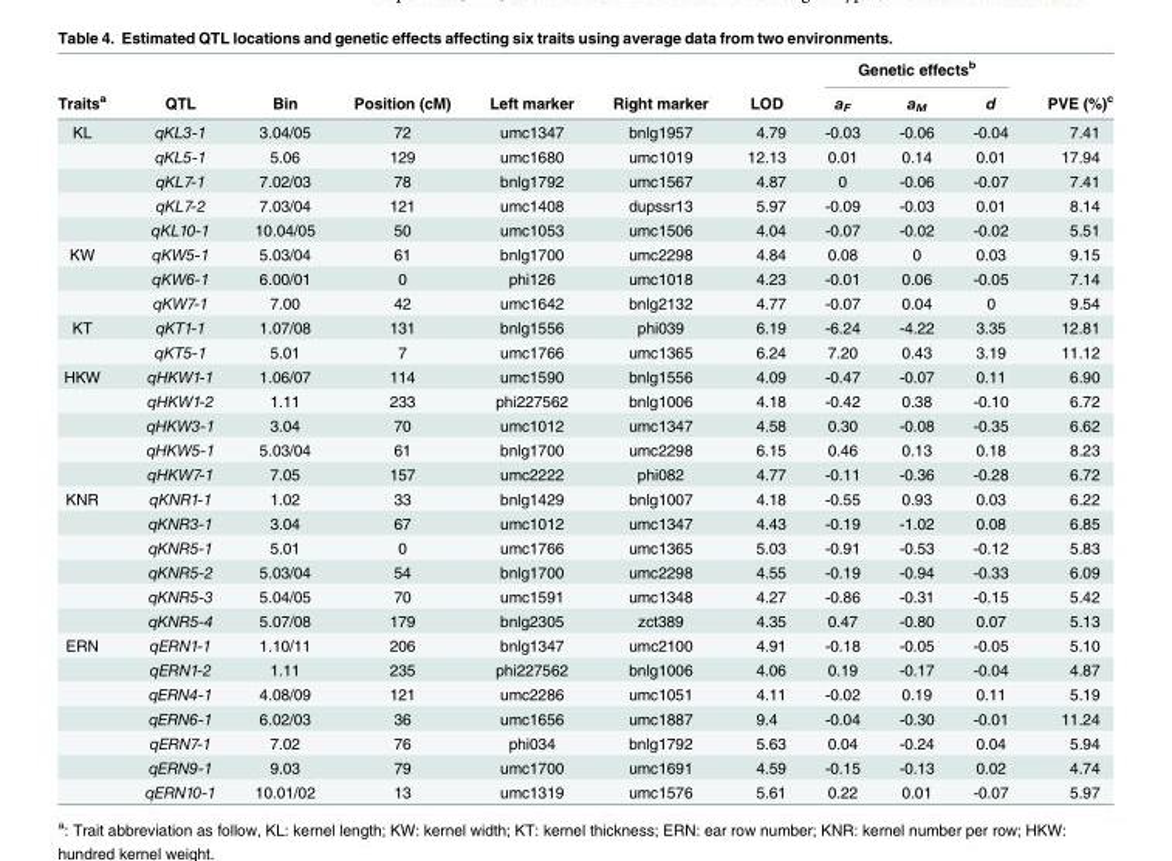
<table><thead><tr><td rowspan="2">Traits<sup>a</sup></td><td rowspan="2">QTL</td><td rowspan="2">Bin</td><td rowspan="2">Position (cM)</td><td rowspan="2">Left marker</td><td rowspan="2">Right marker</td><td rowspan="2">LOD</td><td colspan="3">Genetic effects<sup>b</sup></td><td rowspan="2">PVE (%)<sup>c</sup></td></tr><tr><td>a<sub>F</sub></td><td>a<sub>M</sub></td><td>d</td></tr></thead><tbody><tr><td rowspan="5">KL</td><td>qKL3-1</td><td>3.04/05</td><td>72</td><td>umc1347</td><td>bnlg1957</td><td>4.79</td><td>-0.03</td><td>-0.06</td><td>-0.04</td><td>7.41</td></tr><tr><td>qKL5-1</td><td>5.06</td><td>129</td><td>umc1680</td><td>umc1019</td><td>12.13</td><td>0.01</td><td>0.14</td><td>0.01</td><td>17.94</td></tr><tr><td>qKL7-1</td><td>7.02/03</td><td>78</td><td>bnlg1792</td><td>umc1567</td><td>4.87</td><td>0</td><td>-0.06</td><td>-0.07</td><td>7.41</td></tr><tr><td>qKL7-2</td><td>7.03/04</td><td>121</td><td>umc1408</td><td>dupssr13</td><td>5.97</td><td>-0.09</td><td>-0.03</td><td>0.01</td><td>8.14</td></tr><tr><td>qKL10-1</td><td>10.04/05</td><td>50</td><td>umc1053</td><td>umc1506</td><td>4.04</td><td>-0.07</td><td>-0.02</td><td>-0.02</td><td>5.51</td></tr><tr><td rowspan="3">KW</td><td>qKW5-1</td><td>5.03/04</td><td>61</td><td>bnlg1700</td><td>umc2298</td><td>4.84</td><td>0.08</td><td>0</td><td>0.03</td><td>9.15</td></tr><tr><td>qKW6-1</td><td>6.00/01</td><td>0</td><td>phi126</td><td>umc1018</td><td>4.23</td><td>-0.01</td><td>0.06</td><td>-0.05</td><td>7.14</td></tr><tr><td>qKW7-1</td><td>7.00</td><td>42</td><td>umc1642</td><td>bnlg2132</td><td>4.77</td><td>-0.07</td><td>0.04</td><td>0</td><td>9.54</td></tr><tr><td rowspan="2">KT</td><td>qKT1-1</td><td>1.07/08</td><td>131</td><td>bnlg1556</td><td>phi039</td><td>6.19</td><td>-6.24</td><td>-4.22</td><td>3.35</td><td>12.81</td></tr><tr><td>qKT5-1</td><td>5.01</td><td>7</td><td>umc1766</td><td>umc1365</td><td>6.24</td><td>7.20</td><td>0.43</td><td>3.19</td><td>11.12</td></tr><tr><td rowspan="5">HKW</td><td>qHKW1-1</td><td>1.06/07</td><td>114</td><td>umc1590</td><td>bnlg1556</td><td>4.09</td><td>-0.47</td><td>-0.07</td><td>0.11</td><td>6.90</td></tr><tr><td>qHKW1-2</td><td>1.11</td><td>233</td><td>phi227562</td><td>bnlg1006</td><td>4.18</td><td>-0.42</td><td>0.38</td><td>-0.10</td><td>6.72</td></tr><tr><td>qHKW3-1</td><td>3.04</td><td>70</td><td>umc1012</td><td>umc1347</td><td>4.58</td><td>0.30</td><td>-0.08</td><td>-0.35</td><td>6.62</td></tr><tr><td>qHKW5-1</td><td>5.03/04</td><td>61</td><td>bnlg1700</td><td>umc2298</td><td>6.15</td><td>0.46</td><td>0.13</td><td>0.18</td><td>8.23</td></tr><tr><td>qHKW7-1</td><td>7.05</td><td>157</td><td>umc2222</td><td>phi082</td><td>4.77</td><td>-0.11</td><td>-0.36</td><td>-0.28</td><td>6.72</td></tr><tr><td rowspan="6">KNR</td><td>qKNR1-1</td><td>1.02</td><td>33</td><td>bnlg1429</td><td>bnlg1007</td><td>4.18</td><td>-0.55</td><td>0.93</td><td>0.03</td><td>6.22</td></tr><tr><td>qKNR3-1</td><td>3.04</td><td>67</td><td>umc1012</td><td>umc1347</td><td>4.43</td><td>-0.19</td><td>-1.02</td><td>0.08</td><td>6.85</td></tr><tr><td>qKNR5-1</td><td>5.01</td><td>0</td><td>umc1766</td><td>umc1365</td><td>5.03</td><td>-0.91</td><td>-0.53</td><td>-0.12</td><td>5.83</td></tr><tr><td>qKNR5-2</td><td>5.03/04</td><td>54</td><td>bnlg1700</td><td>umc2298</td><td>4.55</td><td>-0.19</td><td>-0.94</td><td>-0.33</td><td>6.09</td></tr><tr><td>qKNR5-3</td><td>5.04/05</td><td>70</td><td>umc1591</td><td>umc1348</td><td>4.27</td><td>-0.86</td><td>-0.31</td><td>-0.15</td><td>5.42</td></tr><tr><td>qKNR5-4</td><td>5.07/08</td><td>179</td><td>bnlg2305</td><td>zct389</td><td>4.35</td><td>0.47</td><td>-0.80</td><td>0.07</td><td>5.13</td></tr><tr><td rowspan="7">ERN</td><td>qERN1-1</td><td>1.10/11</td><td>206</td><td>bnlg1347</td><td>umc2100</td><td>4.91</td><td>-0.18</td><td>-0.05</td><td>-0.05</td><td>5.10</td></tr><tr><td>qERN1-2</td><td>1.11</td><td>235</td><td>phi227562</td><td>bnlg1006</td><td>4.06</td><td>0.19</td><td>-0.17</td><td>-0.04</td><td>4.87</td></tr><tr><td>qERN4-1</td><td>4.08/09</td><td>121</td><td>umc2286</td><td>umc1051</td><td>4.11</td><td>-0.02</td><td>0.19</td><td>0.11</td><td>5.19</td></tr><tr><td>qERN6-1</td><td>6.02/03</td><td>36</td><td>umc1656</td><td>umc1887</td><td>9.4</td><td>-0.04</td><td>-0.30</td><td>-0.01</td><td>11.24</td></tr><tr><td>qERN7-1</td><td>7.02</td><td>76</td><td>phi034</td><td>bnlg1792</td><td>5.63</td><td>0.04</td><td>-0.24</td><td>0.04</td><td>5.94</td></tr><tr><td>qERN9-1</td><td>9.03</td><td>79</td><td>umc1700</td><td>umc1691</td><td>4.59</td><td>-0.15</td><td>-0.13</td><td>0.02</td><td>4.74</td></tr><tr><td>qERN10-1</td><td>10.01/02</td><td>13</td><td>umc1319</td><td>umc1576</td><td>5.61</td><td>0.22</td><td>0.01</td><td>-0.07</td><td>5.97</td></tr></tbody></table>